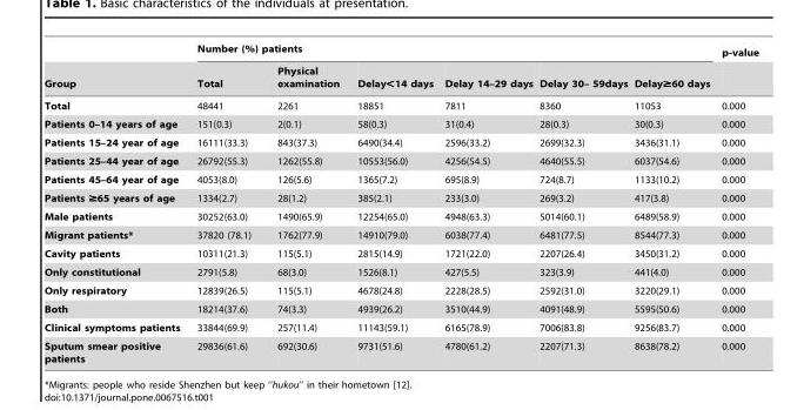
<table><thead><tr><td rowspan="2">Group</td><td colspan="6">Number (%) patients</td><td rowspan="2">p-value</td></tr><tr><td>Total</td><td>Physical examination</td><td>Delay&lt;14 days</td><td>Delay 14–29 days</td><td>Delay 30– 59days</td><td>Delay≥60 days</td></tr></thead><tbody><tr><td>Total</td><td>48441</td><td>2261</td><td>18851</td><td>7811</td><td>8360</td><td>11053</td><td>0.000</td></tr><tr><td>Patients 0–14 years of age</td><td>151(0.3)</td><td>2(0.1)</td><td>58(0.3)</td><td>31(0.4)</td><td>28(0.3)</td><td>30(0.3)</td><td>0.000</td></tr><tr><td>Patients 15–24 year of age</td><td>16111(33.3)</td><td>843(37.3)</td><td>6490(34.4)</td><td>2596(33.2)</td><td>2699(32.3)</td><td>3436(31.1)</td><td>0.000</td></tr><tr><td>Patients 25–44 year of age</td><td>26792(55.3)</td><td>1262(55.8)</td><td>10553(56.0)</td><td>4256(54.5)</td><td>4640(55.5)</td><td>6037(54.6)</td><td>0.000</td></tr><tr><td>Patients 45–64 year of age</td><td>4053(8.0)</td><td>126(5.6)</td><td>1365(7.2)</td><td>695(8.9)</td><td>724(8.7)</td><td>1133(10.2)</td><td>0.000</td></tr><tr><td>Patients ≥65 years of age</td><td>1334(2.7)</td><td>28(1.2)</td><td>385(2.1)</td><td>233(3.0)</td><td>269(3.2)</td><td>417(3.8)</td><td>0.000</td></tr><tr><td>Male patients</td><td>30252(63.0)</td><td>1490(65.9)</td><td>12254(65.0)</td><td>4948(63.3)</td><td>5014(60.1)</td><td>6489(58.9)</td><td>0.000</td></tr><tr><td>Migrant patients*</td><td>37820 (78.1)</td><td>1762(77.9)</td><td>14910(79.0)</td><td>6038(77.4)</td><td>6481(77.5)</td><td>8544(77.3)</td><td>0.000</td></tr><tr><td>Cavity patients</td><td>10311(21.3)</td><td>115(5.1)</td><td>2815(14.9)</td><td>1721(22.0)</td><td>2207(26.4)</td><td>3450(31.2)</td><td>0.000</td></tr><tr><td>Only constitutional</td><td>2791(5.8)</td><td>68(3.0)</td><td>1526(8.1)</td><td>427(5.5)</td><td>323(3.9)</td><td>441(4.0)</td><td>0.000</td></tr><tr><td>Only respiratory</td><td>12839(26.5)</td><td>115(5.1)</td><td>4678(24.8)</td><td>2228(28.5)</td><td>2592(31.0)</td><td>3220(29.1)</td><td>0.000</td></tr><tr><td>Both</td><td>18214(37.6)</td><td>74(3.3)</td><td>4939(26.2)</td><td>3510(44.9)</td><td>4091(48.9)</td><td>5595(50.6)</td><td>0.000</td></tr><tr><td>Clinical symptoms patients</td><td>33844(69.9)</td><td>257(11.4)</td><td>11143(59.1)</td><td>6165(78.9)</td><td>7006(83.8)</td><td>9256(83.7)</td><td>0.000</td></tr><tr><td>Sputum smear positive patients</td><td>29836(61.6)</td><td>692(30.6)</td><td>9731(51.6)</td><td>4780(61.2)</td><td>2207(71.3)</td><td>8638(78.2)</td><td>0.000</td></tr></tbody></table>